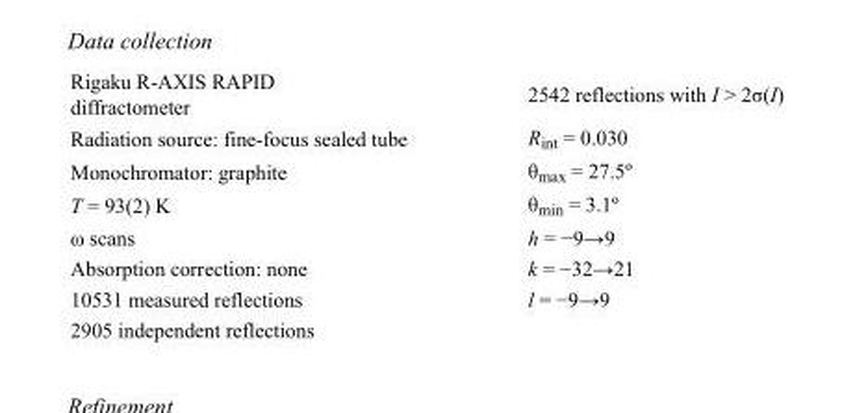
<table><tbody><tr><td>Rigaku R-AXIS RAPID diffractometer</td><td>2542 reflections with I &gt; 2σ(I)</td></tr><tr><td>Radiation source: fine-focus sealed tube</td><td>R<sub>int</sub> = 0.030</td></tr><tr><td>Monochromator: graphite</td><td>θ<sub>max</sub> = 27.5º</td></tr><tr><td>T = 93(2) K</td><td>θ<sub>min</sub> = 3.1º</td></tr><tr><td>ω scans</td><td>h = −9→9</td></tr><tr><td>Absorption correction: none</td><td>k = −32→21</td></tr><tr><td>10531 measured reflections</td><td>l = −9→9</td></tr><tr><td>2905 independent reflections</td><td></td></tr></tbody></table>